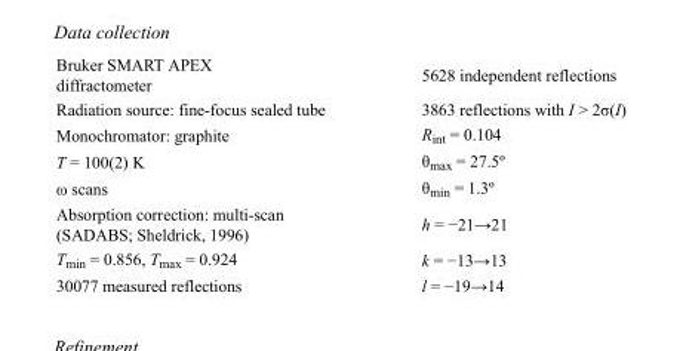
<table><tbody><tr><td>Bruker SMART APEX diffractometer</td><td>5628 independent reflections</td></tr><tr><td>Radiation source: fine-focus sealed tube</td><td>3863 reflections with I &gt; 2σ(I)</td></tr><tr><td>Monochromator: graphite</td><td>R<sub>int</sub> = 0.104</td></tr><tr><td>T = 100(2) K</td><td>θ<sub>max</sub> = 27.5º</td></tr><tr><td>ω scans</td><td>θ<sub>min</sub> = 1.3º</td></tr><tr><td>Absorption correction: multi-scan (SADABS; Sheldrick, 1996)</td><td>h = −21→21</td></tr><tr><td>T<sub>min</sub> = 0.856, T<sub>max</sub> = 0.924</td><td>k = −13→13</td></tr><tr><td>30077 measured reflections</td><td>l = −19→14</td></tr></tbody></table>